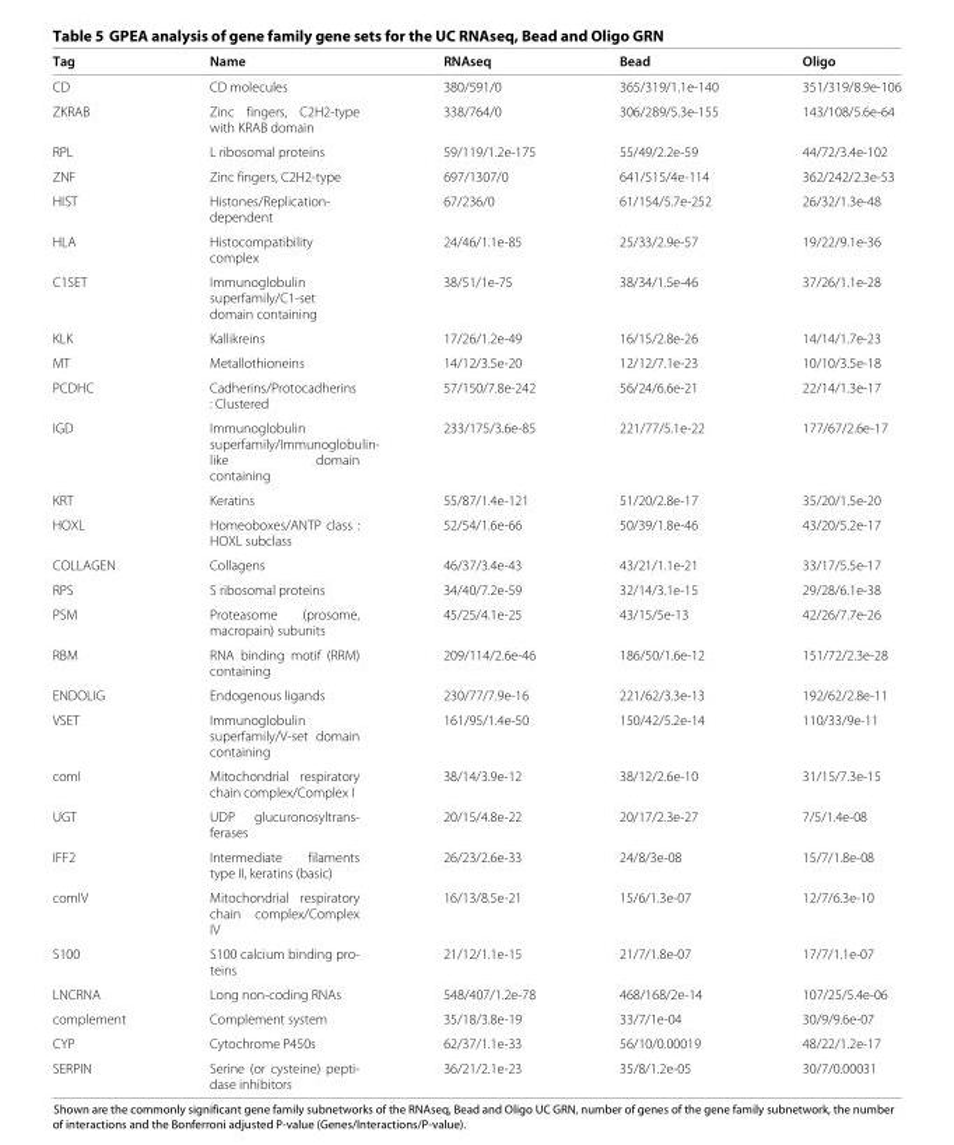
<table><thead><tr><td>Tag</td><td>Name</td><td>RNAseq</td><td>Bead</td><td>Oligo</td></tr></thead><tbody><tr><td>CD</td><td>CD molecules</td><td>380/591/0</td><td>365/319/1.1e-140</td><td>351/319/8.9e-106</td></tr><tr><td>ZKRAB</td><td>Zinc fingers, C2H2-type with KRAB domain</td><td>338/764/0</td><td>306/289/5.3e-155</td><td>143/108/5.6e-64</td></tr><tr><td>RPL</td><td>L ribosomal proteins</td><td>59/119/1.2e-175</td><td>55/49/2.2e-59</td><td>44/72/3.4e-102</td></tr><tr><td>ZNF</td><td>Zinc fingers, C2H2-type</td><td>697/1307/0</td><td>641/515/4e-114</td><td>362/242/2.3e-53</td></tr><tr><td>HIST</td><td>Histones/Replication- dependent</td><td>67/236/0</td><td>61/154/5.7e-252</td><td>26/32/1.3e-48</td></tr><tr><td>HLA</td><td>Histocompatibility complex</td><td>24/46/1.1e-85</td><td>25/33/2.9e-57</td><td>19/22/9.1e-36</td></tr><tr><td>C1SET</td><td>Immunoglobulin superfamily/C1-set domain containing</td><td>38/51/1e-75</td><td>38/34/1.5e-46</td><td>37/26/1.1e-28</td></tr><tr><td>KLK</td><td>Kallikreins</td><td>17/26/1.2e-49</td><td>16/15/2.8e-26</td><td>14/14/1.7e-23</td></tr><tr><td>MT</td><td>Metallothioneins</td><td>14/12/3.5e-20</td><td>12/12/7.1e-23</td><td>10/10/3.5e-18</td></tr><tr><td>PCDHC</td><td>Cadherins/Protocadherins : Clustered</td><td>57/150/7.8e-242</td><td>56/24/6.6e-21</td><td>22/14/1.3e-17</td></tr><tr><td>IGD</td><td>Immunoglobulin superfamily/Immunoglobulin- like domain containing</td><td>233/175/3.6e-85</td><td>221/77/5.1e-22</td><td>177/67/2.6e-17</td></tr><tr><td>KRT</td><td>Keratins</td><td>55/87/1.4e-121</td><td>51/20/2.8e-17</td><td>35/20/1.5e-20</td></tr><tr><td>HOXL</td><td>Homeoboxes/ANTP class : HOXL subclass</td><td>52/54/1.6e-66</td><td>50/39/1.8e-46</td><td>43/20/5.2e-17</td></tr><tr><td>COLLAGEN</td><td>Collagens</td><td>46/37/3.4e-43</td><td>43/21/1.1e-21</td><td>33/17/5.5e-17</td></tr><tr><td>RPS</td><td>S ribosomal proteins</td><td>34/40/7.2e-59</td><td>32/14/3.1e-15</td><td>29/28/6.1e-38</td></tr><tr><td>PSM</td><td>Proteasome (prosome, macropain) subunits</td><td>45/25/4.1e-25</td><td>43/15/5e-13</td><td>42/26/7.7e-26</td></tr><tr><td>RBM</td><td>RNA binding motif (RRM) containing</td><td>209/114/2.6e-46</td><td>186/50/1.6e-12</td><td>151/72/2.3e-28</td></tr><tr><td>ENDOLIG</td><td>Endogenous ligands</td><td>230/77/7.9e-16</td><td>221/62/3.3e-13</td><td>192/62/2.8e-11</td></tr><tr><td>VSET</td><td>Immunoglobulin superfamily/V-set domain containing</td><td>161/95/1.4e-50</td><td>150/42/5.2e-14</td><td>110/33/9e-11</td></tr><tr><td>comI</td><td>Mitochondrial respiratory chain complex/Complex I</td><td>38/14/3.9e-12</td><td>38/12/2.6e-10</td><td>31/15/7.3e-15</td></tr><tr><td>UGT</td><td>UDP glucuronosyltrans- ferases</td><td>20/15/4.8e-22</td><td>20/17/2.3e-27</td><td>7/5/1.4e-08</td></tr><tr><td>IFF2</td><td>Intermediate filaments type II, keratins (basic)</td><td>26/23/2.6e-33</td><td>24/8/3e-08</td><td>15/7/1.8e-08</td></tr><tr><td>comIV</td><td>Mitochondrial respiratory chain complex/Complex IV</td><td>16/13/8.5e-21</td><td>15/6/1.3e-07</td><td>12/7/6.3e-10</td></tr><tr><td>S100</td><td>S100 calcium binding pro- teins</td><td>21/12/1.1e-15</td><td>21/7/1.8e-07</td><td>17/7/1.1e-07</td></tr><tr><td>LNCRNA</td><td>Long non-coding RNAs</td><td>548/407/1.2e-78</td><td>468/168/2e-14</td><td>107/25/5.4e-06</td></tr><tr><td>complement</td><td>Complement system</td><td>35/18/3.8e-19</td><td>33/7/1e-04</td><td>30/9/9.6e-07</td></tr><tr><td>CYP</td><td>Cytochrome P450s</td><td>62/37/1.1e-33</td><td>56/10/0.00019</td><td>48/22/1.2e-17</td></tr><tr><td>SERPIN</td><td>Serine (or cysteine) pepti- dase inhibitors</td><td>36/21/2.1e-23</td><td>35/8/1.2e-05</td><td>30/7/0.00031</td></tr></tbody></table>